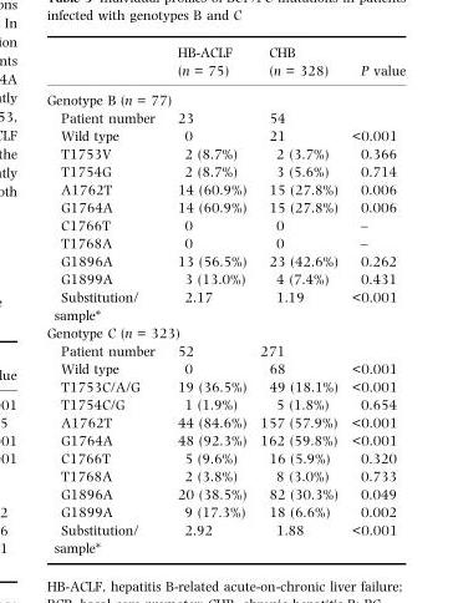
<table><thead><tr><td></td><td>HB-ACLF (n = 75)</td><td>CHB (n = 328)</td><td>P value</td></tr></thead><tbody><tr><td colspan="4">Genotype B (n = 77)</td></tr><tr><td>Patient number</td><td>23</td><td>54</td><td></td></tr><tr><td>Wild type</td><td>0</td><td>21</td><td>&lt;0.001</td></tr><tr><td>T1753V</td><td>2 (8.7%)</td><td>2 (3.7%)</td><td>0.366</td></tr><tr><td>T1754G</td><td>2 (8.7%)</td><td>3 (5.6%)</td><td>0.714</td></tr><tr><td>A1762T</td><td>14 (60.9%)</td><td>15 (27.8%)</td><td>0.006</td></tr><tr><td>G1764A</td><td>14 (60.9%)</td><td>15 (27.8%)</td><td>0.006</td></tr><tr><td>C1766T</td><td>0</td><td>0</td><td>–</td></tr><tr><td>T1768A</td><td>0</td><td>0</td><td>–</td></tr><tr><td>G1896A</td><td>13 (56.5%)</td><td>23 (42.6%)</td><td>0.262</td></tr><tr><td>G1899A</td><td>3 (13.0%)</td><td>4 (7.4%)</td><td>0.431</td></tr><tr><td>Substitution/ sample*</td><td>2.17</td><td>1.19</td><td>&lt;0.001</td></tr><tr><td colspan="4">Genotype C (n = 323)</td></tr><tr><td>Patient number</td><td>52</td><td>271</td><td></td></tr><tr><td>Wild type</td><td>0</td><td>68</td><td>&lt;0.001</td></tr><tr><td>T1753C/A/G</td><td>19 (36.5%)</td><td>49 (18.1%)</td><td>&lt;0.001</td></tr><tr><td>T1754C/G</td><td>1 (1.9%)</td><td>5 (1.8%)</td><td>0.654</td></tr><tr><td>A1762T</td><td>44 (84.6%)</td><td>157 (57.9%)</td><td>&lt;0.001</td></tr><tr><td>G1764A</td><td>48 (92.3%)</td><td>162 (59.8%)</td><td>&lt;0.001</td></tr><tr><td>C1766T</td><td>5 (9.6%)</td><td>16 (5.9%)</td><td>0.320</td></tr><tr><td>T1768A</td><td>2 (3.8%)</td><td>8 (3.0%)</td><td>0.733</td></tr><tr><td>G1896A</td><td>20 (38.5%)</td><td>82 (30.3%)</td><td>0.049</td></tr><tr><td>G1899A</td><td>9 (17.3%)</td><td>18 (6.6%)</td><td>0.002</td></tr><tr><td>Substitution/ sample*</td><td>2.92</td><td>1.88</td><td>&lt;0.001</td></tr></tbody></table>